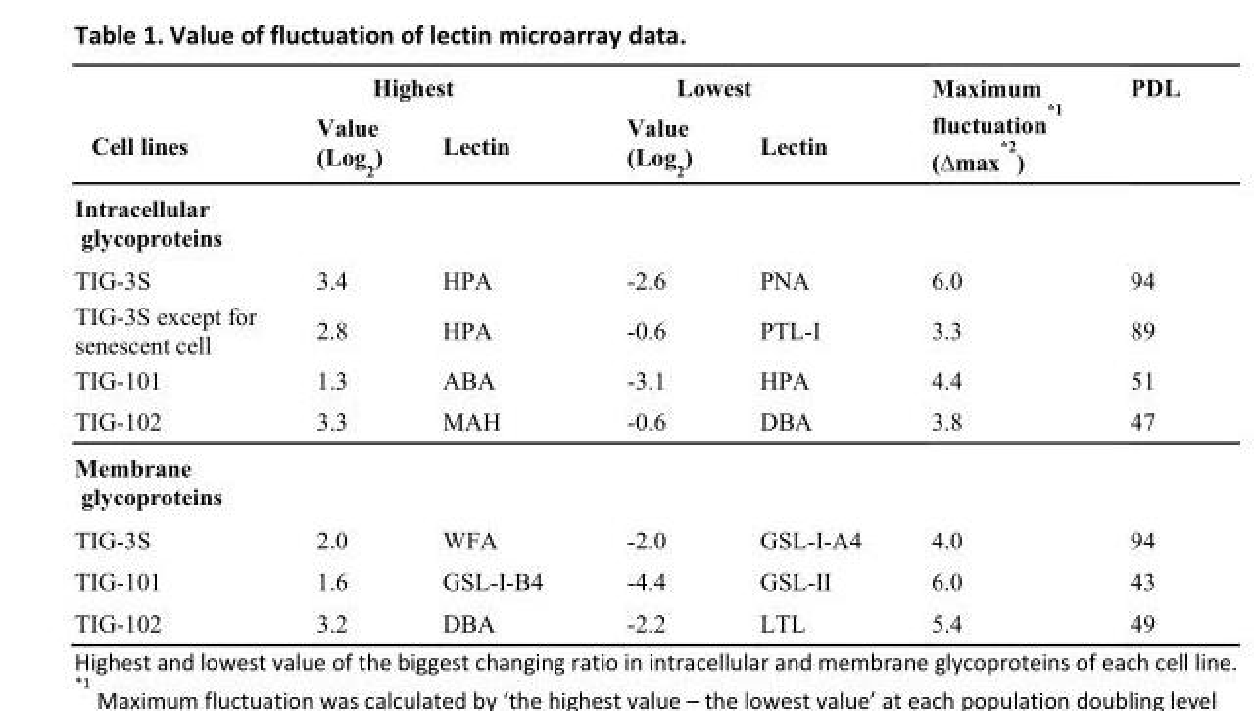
<table><thead><tr><td rowspan="2">Cell lines</td><td colspan="2">Highest</td><td colspan="2">Lowest</td><td rowspan="2">Maximum fluctuation *1 (∆max *2)</td><td rowspan="2">PDL</td></tr><tr><td>Value (Log2)</td><td>Lectin</td><td>Value (Log2)</td><td>Lectin</td></tr></thead><tbody><tr><td colspan="7">Intracellular glycoproteins</td></tr><tr><td>TIG-3S</td><td>3.4</td><td>HPA</td><td>-2.6</td><td>PNA</td><td>6.0</td><td>94</td></tr><tr><td>TIG-3S except for senescent cell</td><td>2.8</td><td>HPA</td><td>-0.6</td><td>PTL-I</td><td>3.3</td><td>89</td></tr><tr><td>TIG-101</td><td>1.3</td><td>ABA</td><td>-3.1</td><td>HPA</td><td>4.4</td><td>51</td></tr><tr><td>TIG-102</td><td>3.3</td><td>MAH</td><td>-0.6</td><td>DBA</td><td>3.8</td><td>47</td></tr><tr><td colspan="7">Membrane glycoproteins</td></tr><tr><td>TIG-3S</td><td>2.0</td><td>WFA</td><td>-2.0</td><td>GSL-I-A4</td><td>4.0</td><td>94</td></tr><tr><td>TIG-101</td><td>1.6</td><td>GSL-I-B4</td><td>-4.4</td><td>GSL-II</td><td>6.0</td><td>43</td></tr><tr><td>TIG-102</td><td>3.2</td><td>DBA</td><td>-2.2</td><td>LTL</td><td>5.4</td><td>49</td></tr></tbody></table>